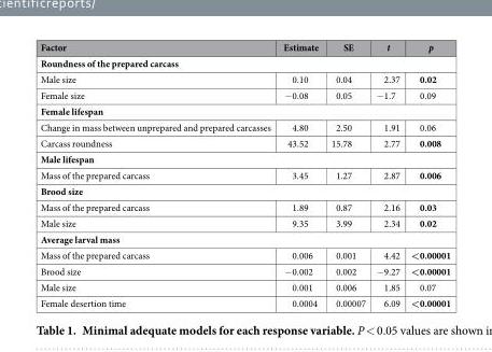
<table><thead><tr><td>Factor</td><td>Estimate</td><td>SE</td><td>t</td><td>p</td></tr></thead><tbody><tr><td colspan="5">Roundness of the prepared carcass</td></tr><tr><td>Male size</td><td>0.10</td><td>0.04</td><td>2.37</td><td>0.02</td></tr><tr><td>Female size</td><td>− 0.08</td><td>0.05</td><td>− 1.7</td><td>0.09</td></tr><tr><td colspan="5">Female lifespan</td></tr><tr><td>Change in mass between unprepared and prepared carcasses</td><td>4.80</td><td>2.50</td><td>1.91</td><td>0.06</td></tr><tr><td>Carcass roundness</td><td>43.52</td><td>15.78</td><td>2.77</td><td>0.008</td></tr><tr><td colspan="5">Male lifespan</td></tr><tr><td>Mass of the prepared carcass</td><td>3.45</td><td>1.27</td><td>2.87</td><td>0.006</td></tr><tr><td colspan="5">Brood size</td></tr><tr><td>Mass of the prepared carcass</td><td>1.89</td><td>0.87</td><td>2.16</td><td>0.03</td></tr><tr><td>Male size</td><td>9.35</td><td>3.99</td><td>2.34</td><td>0.02</td></tr><tr><td colspan="5">Average larval mass</td></tr><tr><td>Mass of the prepared carcass</td><td>0.006</td><td>0.001</td><td>4.42</td><td>&lt;0.00001</td></tr><tr><td>Brood size</td><td>− 0.002</td><td>0.002</td><td>− 9.27</td><td>&lt;0.00001</td></tr><tr><td>Male size</td><td>0.001</td><td>0.006</td><td>1.85</td><td>0.07</td></tr><tr><td>Female desertion time</td><td>0.0004</td><td>0.00007</td><td>6.09</td><td>&lt;0.00001</td></tr></tbody></table>